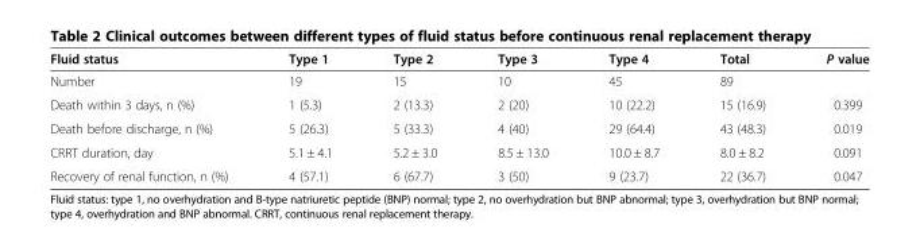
<table><thead><tr><td>Fluid status</td><td>Type 1</td><td>Type 2</td><td>Type 3</td><td>Type 4</td><td>Total</td><td>P value</td></tr></thead><tbody><tr><td>Number</td><td>19</td><td>15</td><td>10</td><td>45</td><td>89</td><td></td></tr><tr><td>Death within 3 days, n (%)</td><td>1 (5.3)</td><td>2 (13.3)</td><td>2 (20)</td><td>10 (22.2)</td><td>15 (16.9)</td><td>0.399</td></tr><tr><td>Death before discharge, n (%)</td><td>5 (26.3)</td><td>5 (33.3)</td><td>4 (40)</td><td>29 (64.4)</td><td>43 (48.3)</td><td>0.019</td></tr><tr><td>CRRT duration, day</td><td>5.1 ± 4.1</td><td>5.2 ± 3.0</td><td>8.5 ± 13.0</td><td>10.0 ± 8.7</td><td>8.0 ± 8.2</td><td>0.091</td></tr><tr><td>Recovery of renal function, n (%)</td><td>4 (57.1)</td><td>6 (67.7)</td><td>3 (50)</td><td>9 (23.7)</td><td>22 (36.7)</td><td>0.047</td></tr></tbody></table>